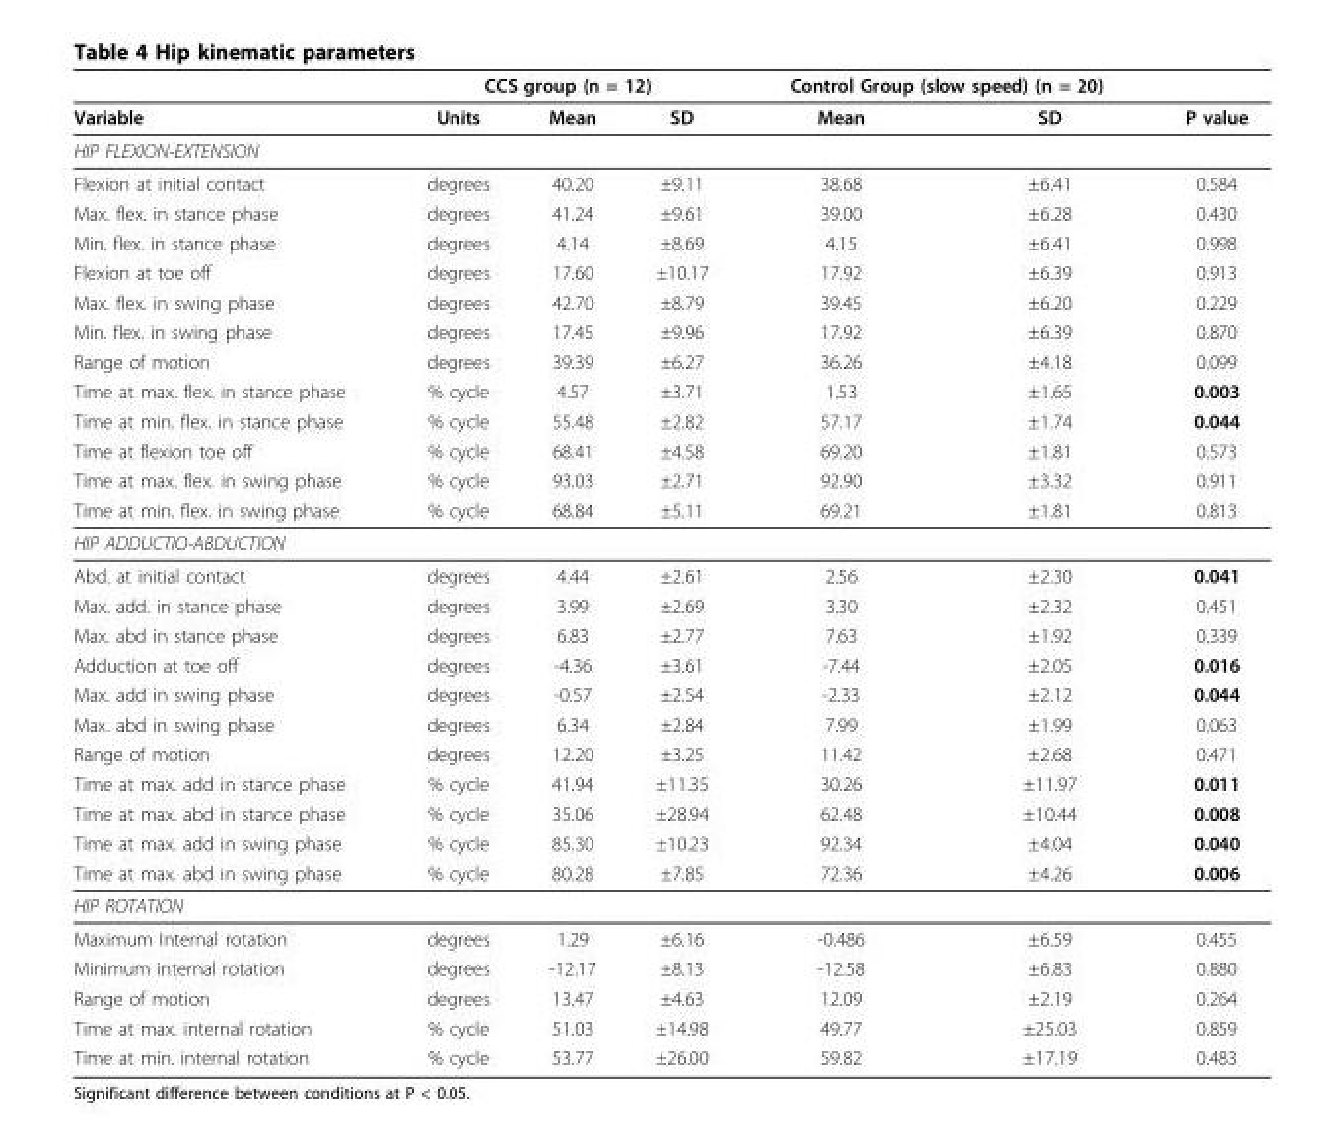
<table><thead><tr><td rowspan="2">Variable</td><td colspan="3">CCS group (n = 12)</td><td colspan="2">Control Group (slow speed) (n = 20)</td><td rowspan="2">P value</td></tr><tr><td>Units</td><td>Mean</td><td>SD</td><td>Mean</td><td>SD</td></tr></thead><tbody><tr><td colspan="7">HIP FLEXION-EXTENSION</td></tr><tr><td>Flexion at initial contact</td><td>degrees</td><td>40.20</td><td>±9.11</td><td>38.68</td><td>±6.41</td><td>0.584</td></tr><tr><td>Max. flex. in stance phase</td><td>degrees</td><td>41.24</td><td>±9.61</td><td>39.00</td><td>±6.28</td><td>0.430</td></tr><tr><td>Min. flex. in stance phase</td><td>degrees</td><td>4.14</td><td>±8.69</td><td>4.15</td><td>±6.41</td><td>0.998</td></tr><tr><td>Flexion at toe off</td><td>degrees</td><td>17.60</td><td>±10.17</td><td>17.92</td><td>±6.39</td><td>0.913</td></tr><tr><td>Max. flex. in swing phase</td><td>degrees</td><td>42.70</td><td>±8.79</td><td>39.45</td><td>±6.20</td><td>0.229</td></tr><tr><td>Min. flex. in swing phase</td><td>degrees</td><td>17.45</td><td>±9.96</td><td>17.92</td><td>±6.39</td><td>0.870</td></tr><tr><td>Range of motion</td><td>degrees</td><td>39.39</td><td>±6.27</td><td>36.26</td><td>±4.18</td><td>0.099</td></tr><tr><td>Time at max. flex. in stance phase</td><td>% cycle</td><td>4.57</td><td>±3.71</td><td>1.53</td><td>±1.65</td><td>0.003</td></tr><tr><td>Time at min. flex. in stance phase</td><td>% cycle</td><td>55.48</td><td>±2.82</td><td>57.17</td><td>±1.74</td><td>0.044</td></tr><tr><td>Time at flexion toe off</td><td>% cycle</td><td>68.41</td><td>±4.58</td><td>69.20</td><td>±1.81</td><td>0.573</td></tr><tr><td>Time at max. flex. in swing phase</td><td>% cycle</td><td>93.03</td><td>±2.71</td><td>92.90</td><td>±3.32</td><td>0.911</td></tr><tr><td>Time at min. flex. in swing phase</td><td>% cycle</td><td>68.84</td><td>±5.11</td><td>69.21</td><td>±1.81</td><td>0.813</td></tr><tr><td colspan="7">HIP ADDUCTIO-ABDUCTION</td></tr><tr><td>Abd. at initial contact</td><td>degrees</td><td>4.44</td><td>±2.61</td><td>2.56</td><td>±2.30</td><td>0.041</td></tr><tr><td>Max. add. in stance phase</td><td>degrees</td><td>3.99</td><td>±2.69</td><td>3.30</td><td>±2.32</td><td>0.451</td></tr><tr><td>Max. abd in stance phase</td><td>degrees</td><td>6.83</td><td>±2.77</td><td>7.63</td><td>±1.92</td><td>0.339</td></tr><tr><td>Adduction at toe off</td><td>degrees</td><td>-4.36</td><td>±3.61</td><td>-7.44</td><td>±2.05</td><td>0.016</td></tr><tr><td>Max. add in swing phase</td><td>degrees</td><td>-0.57</td><td>±2.54</td><td>-2.33</td><td>±2.12</td><td>0.044</td></tr><tr><td>Max. abd in swing phase</td><td>degrees</td><td>6.34</td><td>±2.84</td><td>7.99</td><td>±1.99</td><td>0.063</td></tr><tr><td>Range of motion</td><td>degrees</td><td>12.20</td><td>±3.25</td><td>11.42</td><td>±2.68</td><td>0.471</td></tr><tr><td>Time at max. add in stance phase</td><td>% cycle</td><td>41.94</td><td>±11.35</td><td>30.26</td><td>±11.97</td><td>0.011</td></tr><tr><td>Time at max. abd in stance phase</td><td>% cycle</td><td>35.06</td><td>±28.94</td><td>62.48</td><td>±10.44</td><td>0.008</td></tr><tr><td>Time at max. add in swing phase</td><td>% cycle</td><td>85.30</td><td>±10.23</td><td>92.34</td><td>±4.04</td><td>0.040</td></tr><tr><td>Time at max. abd in swing phase</td><td>% cycle</td><td>80.28</td><td>±7.85</td><td>72.36</td><td>±4.26</td><td>0.006</td></tr><tr><td colspan="7">HIP ROTATION</td></tr><tr><td>Maximum Internal rotation</td><td>degrees</td><td>1.29</td><td>±6.16</td><td>-0.486</td><td>±6.59</td><td>0.455</td></tr><tr><td>Minimum internal rotation</td><td>degrees</td><td>-12.17</td><td>±8.13</td><td>-12.58</td><td>±6.83</td><td>0.880</td></tr><tr><td>Range of motion</td><td>degrees</td><td>13.47</td><td>±4.63</td><td>12.09</td><td>±2.19</td><td>0.264</td></tr><tr><td>Time at max. internal rotation</td><td>% cycle</td><td>51.03</td><td>±14.98</td><td>49.77</td><td>±25.03</td><td>0.859</td></tr><tr><td>Time at min. internal rotation</td><td>% cycle</td><td>53.77</td><td>±26.00</td><td>59.82</td><td>±17.19</td><td>0.483</td></tr></tbody></table>